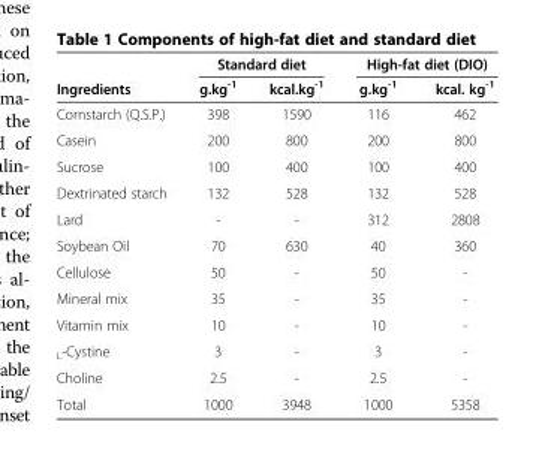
<table><thead><tr><td rowspan="2">Ingredients</td><td colspan="2">Standard diet</td><td colspan="2">High-fat diet (DIO)</td></tr><tr><td>g.kg<sup>-1</sup></td><td>kcal.kg<sup>-1</sup></td><td>g.kg<sup>-1</sup></td><td>kcal. kg<sup>-1</sup></td></tr></thead><tbody><tr><td>Cornstarch (Q.S.P.)</td><td>398</td><td>1590</td><td>116</td><td>462</td></tr><tr><td>Casein</td><td>200</td><td>800</td><td>200</td><td>800</td></tr><tr><td>Sucrose</td><td>100</td><td>400</td><td>100</td><td>400</td></tr><tr><td>Dextrinated starch</td><td>132</td><td>528</td><td>132</td><td>528</td></tr><tr><td>Lard</td><td>-</td><td>-</td><td>312</td><td>2808</td></tr><tr><td>Soybean Oil</td><td>70</td><td>630</td><td>40</td><td>360</td></tr><tr><td>Cellulose</td><td>50</td><td>-</td><td>50</td><td>-</td></tr><tr><td>Mineral mix</td><td>35</td><td>-</td><td>35</td><td>-</td></tr><tr><td>Vitamin mix</td><td>10</td><td>-</td><td>10</td><td>-</td></tr><tr><td><sub>L</sub>-Cystine</td><td>3</td><td>-</td><td>3</td><td>-</td></tr><tr><td>Choline</td><td>2.5</td><td>-</td><td>2.5</td><td>-</td></tr><tr><td>Total</td><td>1000</td><td>3948</td><td>1000</td><td>5358</td></tr></tbody></table>